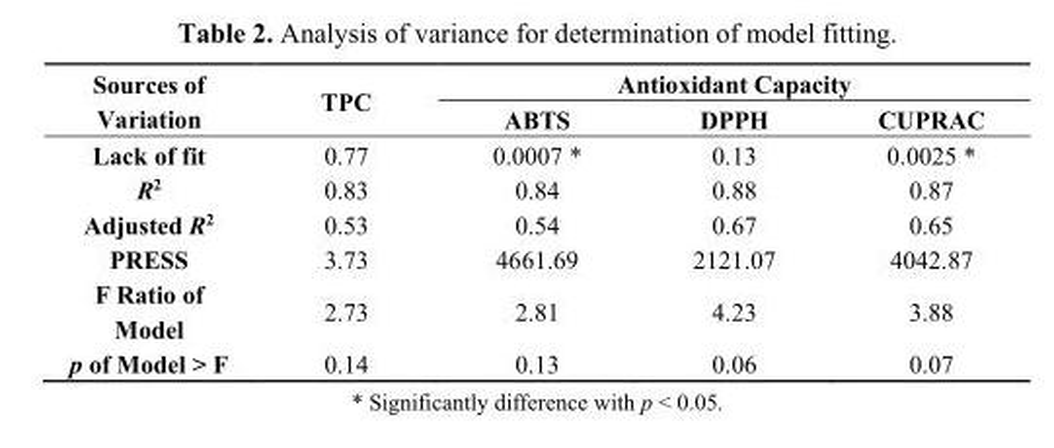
<table><thead><tr><td rowspan="2">Sources of Variation</td><td rowspan="2">TPC</td><td colspan="3">Antioxidant Capacity</td></tr><tr><td>ABTS</td><td>DPPH</td><td>CUPRAC</td></tr></thead><tbody><tr><td>Lack of fit</td><td>0.77</td><td>0.0007 *</td><td>0.13</td><td>0.0025 *</td></tr><tr><td>R<sup>2</sup></td><td>0.83</td><td>0.84</td><td>0.88</td><td>0.87</td></tr><tr><td>Adjusted R<sup>2</sup></td><td>0.53</td><td>0.54</td><td>0.67</td><td>0.65</td></tr><tr><td>PRESS</td><td>3.73</td><td>4661.69</td><td>2121.07</td><td>4042.87</td></tr><tr><td>F Ratio of Model</td><td>2.73</td><td>2.81</td><td>4.23</td><td>3.88</td></tr><tr><td>p of Model &gt; F</td><td>0.14</td><td>0.13</td><td>0.06</td><td>0.07</td></tr></tbody></table>